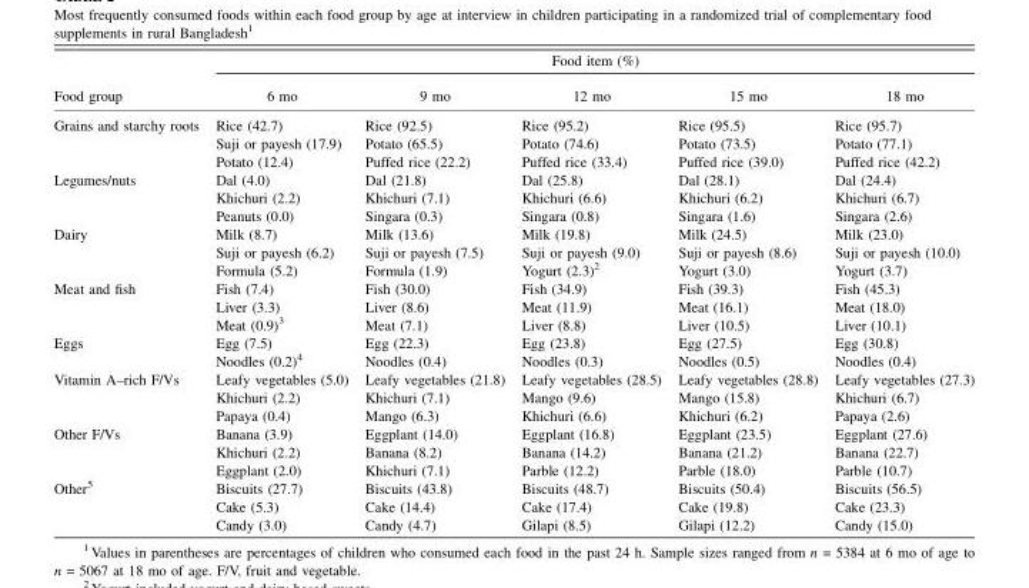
<table><thead><tr><td rowspan="2">Food group</td><td colspan="5">Food item (%)</td></tr><tr><td>6 mo</td><td>9 mo</td><td>12 mo</td><td>15 mo</td><td>18 mo</td></tr></thead><tbody><tr><td rowspan="3">Grains and starchy roots</td><td>Rice (42.7)</td><td>Rice (92.5)</td><td>Rice (95.2)</td><td>Rice (95.5)</td><td>Rice (95.7)</td></tr><tr><td>Suji or payesh (17.9)</td><td>Potato (65.5)</td><td>Potato (74.6)</td><td>Potato (73.5)</td><td>Potato (77.1)</td></tr><tr><td>Potato (12.4)</td><td>Puffed rice (22.2)</td><td>Puffed rice (33.4)</td><td>Puffed rice (39.0)</td><td>Puffed rice (42.2)</td></tr><tr><td rowspan="3">Legumes/nuts</td><td>Dal (4.0)</td><td>Dal (21.8)</td><td>Dal (25.8)</td><td>Dal (28.1)</td><td>Dal (24.4)</td></tr><tr><td>Khichuri (2.2)</td><td>Khichuri (7.1)</td><td>Khichuri (6.6)</td><td>Khichuri (6.2)</td><td>Khichuri (6.7)</td></tr><tr><td>Peanuts (0.0)</td><td>Singara (0.3)</td><td>Singara (0.8)</td><td>Singara (1.6)</td><td>Singara (2.6)</td></tr><tr><td rowspan="3">Dairy</td><td>Milk (8.7)</td><td>Milk (13.6)</td><td>Milk (19.8)</td><td>Milk (24.5)</td><td>Milk (23.0)</td></tr><tr><td>Suji or payesh (6.2)</td><td>Suji or payesh (7.5)</td><td>Suji or payesh (9.0)</td><td>Suji or payesh (8.6)</td><td>Suji or payesh (10.0)</td></tr><tr><td>Formula (5.2)</td><td>Formula (1.9)</td><td>Yogurt (2.3)<sup>2</sup></td><td>Yogurt (3.0)</td><td>Yogurt (3.7)</td></tr><tr><td rowspan="3">Meat and fish</td><td>Fish (7.4)</td><td>Fish (30.0)</td><td>Fish (34.9)</td><td>Fish (39.3)</td><td>Fish (45.3)</td></tr><tr><td>Liver (3.3)</td><td>Liver (8.6)</td><td>Meat (11.9)</td><td>Meat (16.1)</td><td>Meat (18.0)</td></tr><tr><td>Meat (0.9)<sup>3</sup></td><td>Meat (7.1)</td><td>Liver (8.8)</td><td>Liver (10.5)</td><td>Liver (10.1)</td></tr><tr><td rowspan="2">Eggs</td><td>Egg (7.5)</td><td>Egg (22.3)</td><td>Egg (23.8)</td><td>Egg (27.5)</td><td>Egg (30.8)</td></tr><tr><td>Noodles (0.2)<sup>4</sup></td><td>Noodles (0.4)</td><td>Noodles (0.3)</td><td>Noodles (0.5)</td><td>Noodles (0.4)</td></tr><tr><td rowspan="3">Vitamin A–rich F/Vs</td><td>Leafy vegetables (5.0)</td><td>Leafy vegetables (21.8)</td><td>Leafy vegetables (28.5)</td><td>Leafy vegetables (28.8)</td><td>Leafy vegetables (27.3)</td></tr><tr><td>Khichuri (2.2)</td><td>Khichuri (7.1)</td><td>Mango (9.6)</td><td>Mango (15.8)</td><td>Khichuri (6.7)</td></tr><tr><td>Papaya (0.4)</td><td>Mango (6.3)</td><td>Khichuri (6.6)</td><td>Khichuri (6.2)</td><td>Papaya (2.6)</td></tr><tr><td rowspan="3">Other F/Vs</td><td>Banana (3.9)</td><td>Eggplant (14.0)</td><td>Eggplant (16.8)</td><td>Eggplant (23.5)</td><td>Eggplant (27.6)</td></tr><tr><td>Khichuri (2.2)</td><td>Banana (8.2)</td><td>Banana (14.2)</td><td>Banana (21.2)</td><td>Banana (22.7)</td></tr><tr><td>Eggplant (2.0)</td><td>Khichuri (7.1)</td><td>Parble (12.2)</td><td>Parble (18.0)</td><td>Parble (10.7)</td></tr><tr><td rowspan="3">Other<sup>5</sup></td><td>Biscuits (27.7)</td><td>Biscuits (43.8)</td><td>Biscuits (48.7)</td><td>Biscuits (50.4)</td><td>Biscuits (56.5)</td></tr><tr><td>Cake (5.3)</td><td>Cake (14.4)</td><td>Cake (17.4)</td><td>Cake (19.8)</td><td>Cake (23.3)</td></tr><tr><td>Candy (3.0)</td><td>Candy (4.7)</td><td>Gilapi (8.5)</td><td>Gilapi (12.2)</td><td>Candy (15.0)</td></tr></tbody></table>